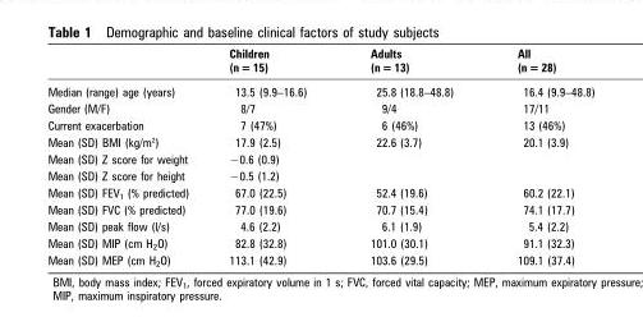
<table><thead><tr><td></td><td>Children (n = 15)</td><td>Adults (n = 13)</td><td>All (n = 28)</td></tr></thead><tbody><tr><td>Median (range) age (years)</td><td>13.5 (9.9–16.6)</td><td>25.8 (18.8–48.8)</td><td>16.4 (9.9–48.8)</td></tr><tr><td>Gender (M/F)</td><td>8/7</td><td>9/4</td><td>17/11</td></tr><tr><td>Current exacerbation</td><td>7 (47%)</td><td>6 (46%)</td><td>13 (46%)</td></tr><tr><td>Mean (SD) BMI (kg/m<sup>2</sup>)</td><td>17.9 (2.5)</td><td>22.6 (3.7)</td><td>20.1 (3.9)</td></tr><tr><td>Mean (SD) Z score for weight</td><td>−0.6 (0.9)</td><td></td><td></td></tr><tr><td>Mean (SD) Z score for height</td><td>−0.5 (1.2)</td><td></td><td></td></tr><tr><td>Mean (SD) FEV<sub>1</sub> (% predicted)</td><td>67.0 (22.5)</td><td>52.4 (19.6)</td><td>60.2 (22.1)</td></tr><tr><td>Mean (SD) FVC (% predicted)</td><td>77.0 (19.6)</td><td>70.7 (15.4)</td><td>74.1 (17.7)</td></tr><tr><td>Mean (SD) peak flow (l/s)</td><td>4.6 (2.2)</td><td>6.1 (1.9)</td><td>5.4 (2.2)</td></tr><tr><td>Mean (SD) MIP (cm H<sub>2</sub>O)</td><td>82.8 (32.8)</td><td>101.0 (30.1)</td><td>91.1 (32.3)</td></tr><tr><td>Mean (SD) MEP (cm H<sub>2</sub>O)</td><td>113.1 (42.9)</td><td>103.6 (29.5)</td><td>109.1 (37.4)</td></tr></tbody></table>